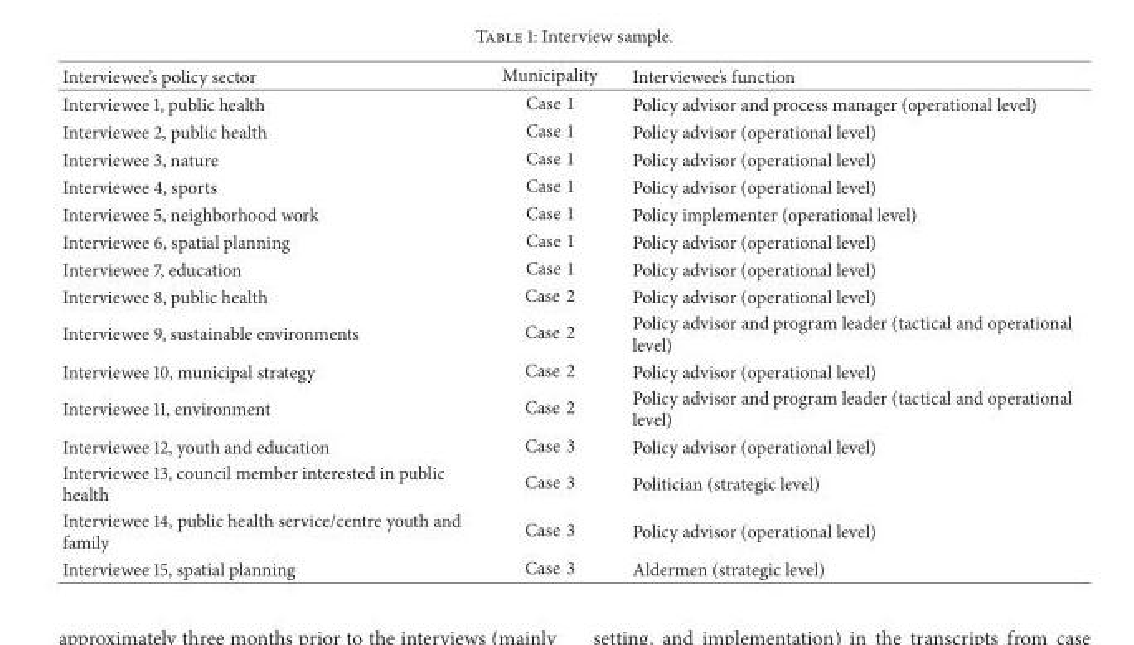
<table><thead><tr><td>Interviewee’s policy sector</td><td>Municipality</td><td>Interviewee’s function</td></tr></thead><tbody><tr><td>Interviewee 1, public health</td><td>Case 1</td><td>Policy advisor and process manager (operational level)</td></tr><tr><td>Interviewee 2, public health</td><td>Case 1</td><td>Policy advisor (operational level)</td></tr><tr><td>Interviewee 3, nature</td><td>Case 1</td><td>Policy advisor (operational level)</td></tr><tr><td>Interviewee 4, sports</td><td>Case 1</td><td>Policy advisor (operational level)</td></tr><tr><td>Interviewee 5, neighborhood work</td><td>Case 1</td><td>Policy implementer (operational level)</td></tr><tr><td>Interviewee 6, spatial planning</td><td>Case 1</td><td>Policy advisor (operational level)</td></tr><tr><td>Interviewee 7, education</td><td>Case 1</td><td>Policy advisor (operational level)</td></tr><tr><td>Interviewee 8, public health</td><td>Case 2</td><td>Policy advisor (operational level)</td></tr><tr><td>Interviewee 9, sustainable environments</td><td>Case 2</td><td>Policy advisor and program leader (tactical and operational level)</td></tr><tr><td>Interviewee 10, municipal strategy</td><td>Case 2</td><td>Policy advisor (operational level)</td></tr><tr><td>Interviewee 11, environment</td><td>Case 2</td><td>Policy advisor and program leader (tactical and operational level)</td></tr><tr><td>Interviewee 12, youth and education</td><td>Case 3</td><td>Policy advisor (operational level)</td></tr><tr><td>Interviewee 13, council member interested in public health</td><td>Case 3</td><td>Politician (strategic level)</td></tr><tr><td>Interviewee 14, public health service/centre youth and family</td><td>Case 3</td><td>Policy advisor (operational level)</td></tr><tr><td>Interviewee 15, spatial planning</td><td>Case 3</td><td>Aldermen (strategic level)</td></tr></tbody></table>